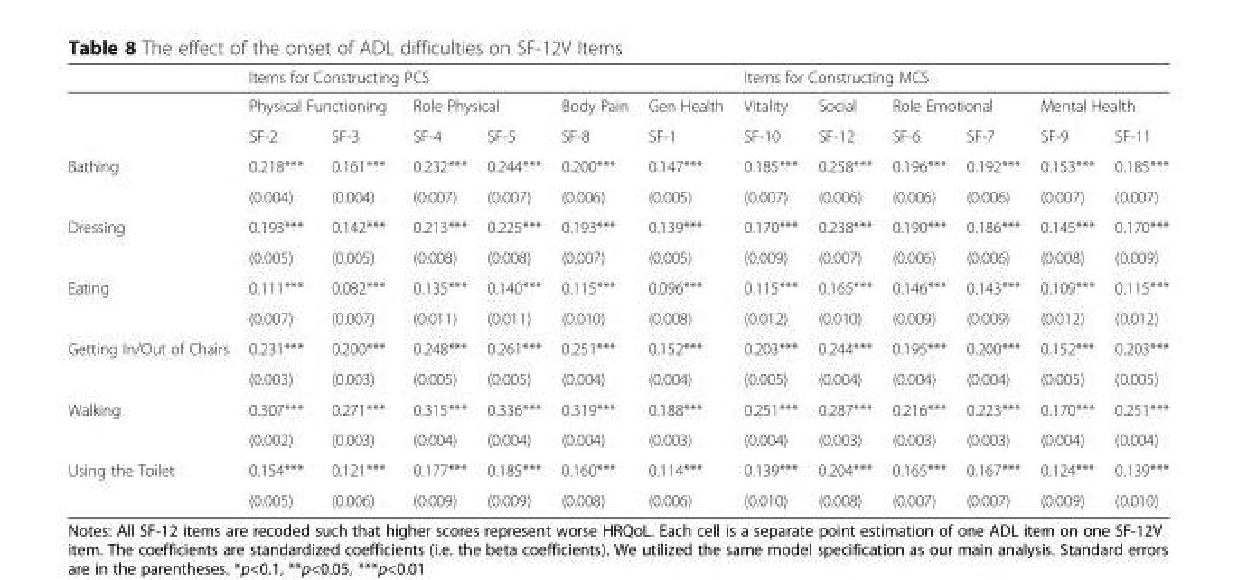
<table><thead><tr><td rowspan="3"></td><td colspan="6">Items for Constructing PCS</td><td colspan="6">Items for Constructing MCS</td></tr><tr><td colspan="2">Physical Functioning</td><td colspan="2">Role Physical</td><td rowspan="2">Body Pain SF-8</td><td rowspan="2">Gen Health SF-1</td><td rowspan="2">Vitality SF-10</td><td rowspan="2">Social SF-12</td><td colspan="2">Role Emotional</td><td colspan="2">Mental Health</td></tr><tr><td>SF-2</td><td>SF-3</td><td>SF-4</td><td>SF-5</td><td>SF-6</td><td>SF-7</td><td>SF-9</td><td>SF-11</td></tr></thead><tbody><tr><td rowspan="2">Bathing</td><td>0.218***</td><td>0.161***</td><td>0.232***</td><td>0.244***</td><td>0.200***</td><td>0.147***</td><td>0.185***</td><td>0.258***</td><td>0.196***</td><td>0.192***</td><td>0.153***</td><td>0.185***</td></tr><tr><td>(0.004)</td><td>(0.004)</td><td>(0.007)</td><td>(0.007)</td><td>(0.006)</td><td>(0.005)</td><td>(0.007)</td><td>(0.006)</td><td>(0.006)</td><td>(0.006)</td><td>(0.007)</td><td>(0.007)</td></tr><tr><td rowspan="2">Dressing</td><td>0.193***</td><td>0.142***</td><td>0.213***</td><td>0.225***</td><td>0.193***</td><td>0.139***</td><td>0.170***</td><td>0.238***</td><td>0.190***</td><td>0.186***</td><td>0.145***</td><td>0.170***</td></tr><tr><td>(0.005)</td><td>(0.005)</td><td>(0.008)</td><td>(0.008)</td><td>(0.007)</td><td>(0.005)</td><td>(0.009)</td><td>(0.007)</td><td>(0.006)</td><td>(0.006)</td><td>(0.008)</td><td>(0.009)</td></tr><tr><td rowspan="2">Eating</td><td>0.111***</td><td>0.082***</td><td>0.135***</td><td>0.140***</td><td>0.115***</td><td>0.096***</td><td>0.115***</td><td>0.165***</td><td>0.146***</td><td>0.143***</td><td>0.109***</td><td>0.115***</td></tr><tr><td>(0.007)</td><td>(0.007)</td><td>(0.011)</td><td>(0.011)</td><td>(0.010)</td><td>(0.008)</td><td>(0.012)</td><td>(0.010)</td><td>(0.009)</td><td>(0.009)</td><td>(0.012)</td><td>(0.012)</td></tr><tr><td rowspan="2">Getting In/Out of Chairs</td><td>0.231***</td><td>0.200***</td><td>0.248***</td><td>0.261***</td><td>0.251***</td><td>0.152***</td><td>0.203***</td><td>0.244***</td><td>0.195***</td><td>0.200***</td><td>0.152***</td><td>0.203***</td></tr><tr><td>(0.003)</td><td>(0.003)</td><td>(0.005)</td><td>(0.005)</td><td>(0.004)</td><td>(0.004)</td><td>(0.005)</td><td>(0.004)</td><td>(0.004)</td><td>(0.004)</td><td>(0.005)</td><td>(0.005)</td></tr><tr><td rowspan="2">Walking</td><td>0.307***</td><td>0.271***</td><td>0.315***</td><td>0.336***</td><td>0.319***</td><td>0.188***</td><td>0.251***</td><td>0.287***</td><td>0.216***</td><td>0.223***</td><td>0.170***</td><td>0.251***</td></tr><tr><td>(0.002)</td><td>(0.003)</td><td>(0.004)</td><td>(0.004)</td><td>(0.004)</td><td>(0.003)</td><td>(0.004)</td><td>(0.003)</td><td>(0.003)</td><td>(0.003)</td><td>(0.004)</td><td>(0.004)</td></tr><tr><td rowspan="2">Using the Toilet</td><td>0.154***</td><td>0.121***</td><td>0.177***</td><td>0.185***</td><td>0.160***</td><td>0.114***</td><td>0.139***</td><td>0.204***</td><td>0.165***</td><td>0.167***</td><td>0.124***</td><td>0.139***</td></tr><tr><td>(0.005)</td><td>(0.006)</td><td>(0.009)</td><td>(0.009)</td><td>(0.008)</td><td>(0.006)</td><td>(0.010)</td><td>(0.008)</td><td>(0.007)</td><td>(0.007)</td><td>(0.009)</td><td>(0.010)</td></tr></tbody></table>